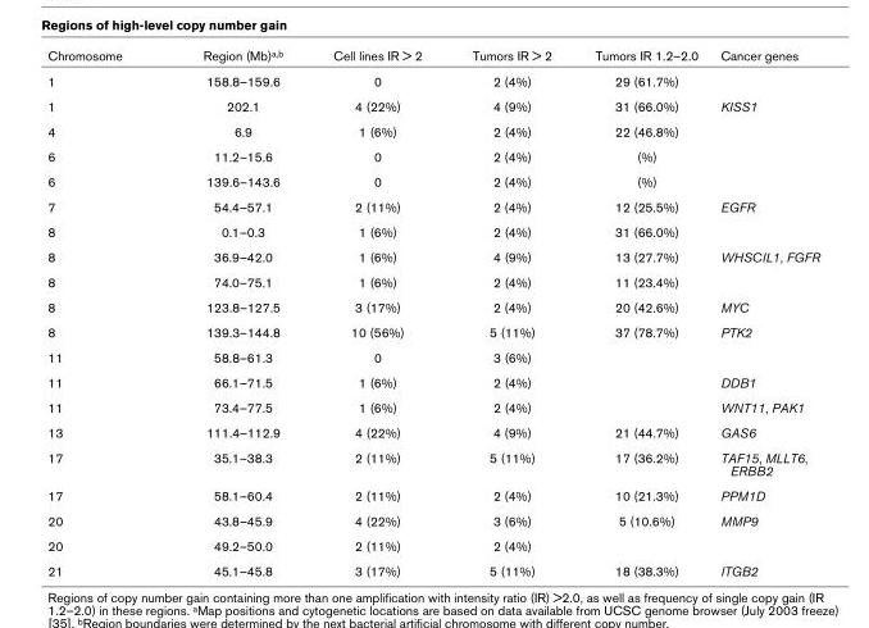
<table><thead><tr><td>Chromosome</td><td>Region (Mb)a,b</td><td>Cell lines IR &gt; 2</td><td>Tumors IR &gt; 2</td><td>Tumors IR 1.2–2.0</td><td>Cancer genes</td></tr></thead><tbody><tr><td>1</td><td>158.8–159.6</td><td>0</td><td>2 (4%)</td><td>29 (61.7%)</td><td></td></tr><tr><td>1</td><td>202.1</td><td>4 (22%)</td><td>4 (9%)</td><td>31 (66.0%)</td><td>KISS1</td></tr><tr><td>4</td><td>6.9</td><td>1 (6%)</td><td>2 (4%)</td><td>22 (46.8%)</td><td></td></tr><tr><td>6</td><td>11.2–15.6</td><td>0</td><td>2 (4%)</td><td>(%)</td><td></td></tr><tr><td>6</td><td>139.6–143.6</td><td>0</td><td>2 (4%)</td><td>(%)</td><td></td></tr><tr><td>7</td><td>54.4–57.1</td><td>2 (11%)</td><td>2 (4%)</td><td>12 (25.5%)</td><td>EGFR</td></tr><tr><td>8</td><td>0.1–0.3</td><td>1 (6%)</td><td>2 (4%)</td><td>31 (66.0%)</td><td></td></tr><tr><td>8</td><td>36.9–42.0</td><td>1 (6%)</td><td>4 (9%)</td><td>13 (27.7%)</td><td>WHSCIL1, FGFR</td></tr><tr><td>8</td><td>74.0–75.1</td><td>1 (6%)</td><td>2 (4%)</td><td>11 (23.4%)</td><td></td></tr><tr><td>8</td><td>123.8–127.5</td><td>3 (17%)</td><td>2 (4%)</td><td>20 (42.6%)</td><td>MYC</td></tr><tr><td>8</td><td>139.3–144.8</td><td>10 (56%)</td><td>5 (11%)</td><td>37 (78.7%)</td><td>PTK2</td></tr><tr><td>11</td><td>58.8–61.3</td><td>0</td><td>3 (6%)</td><td></td><td></td></tr><tr><td>11</td><td>66.1–71.5</td><td>1 (6%)</td><td>2 (4%)</td><td></td><td>DDB1</td></tr><tr><td>11</td><td>73.4–77.5</td><td>1 (6%)</td><td>2 (4%)</td><td></td><td>WNT11, PAK1</td></tr><tr><td>13</td><td>111.4–112.9</td><td>4 (22%)</td><td>4 (9%)</td><td>21 (44.7%)</td><td>GAS6</td></tr><tr><td>17</td><td>35.1–38.3</td><td>2 (11%)</td><td>5 (11%)</td><td>17 (36.2%)</td><td>TAF15, MLLT6, ERBB2</td></tr><tr><td>17</td><td>58.1–60.4</td><td>2 (11%)</td><td>2 (4%)</td><td>10 (21.3%)</td><td>PPM1D</td></tr><tr><td>20</td><td>43.8–45.9</td><td>4 (22%)</td><td>3 (6%)</td><td>5 (10.6%)</td><td>MMP9</td></tr><tr><td>20</td><td>49.2–50.0</td><td>2 (11%)</td><td>2 (4%)</td><td></td><td></td></tr><tr><td>21</td><td>45.1–45.8</td><td>3 (17%)</td><td>5 (11%)</td><td>18 (38.3%)</td><td>ITGB2</td></tr></tbody></table>